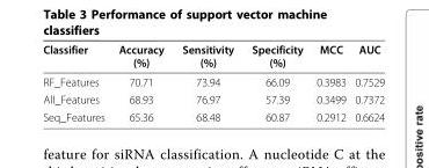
<table><thead><tr><td>Classifier</td><td>Accuracy (%)</td><td>Sensitivity (%)</td><td>Specificity (%)</td><td>MCC</td><td>AUC</td></tr></thead><tbody><tr><td>RF_Features</td><td>70.71</td><td>73.94</td><td>66.09</td><td>0.3983</td><td>0.7529</td></tr><tr><td>All_Features</td><td>68.93</td><td>76.97</td><td>57.39</td><td>0.3499</td><td>0.7372</td></tr><tr><td>Seq_Features</td><td>65.36</td><td>68.48</td><td>60.87</td><td>0.2912</td><td>0.6624</td></tr></tbody></table>